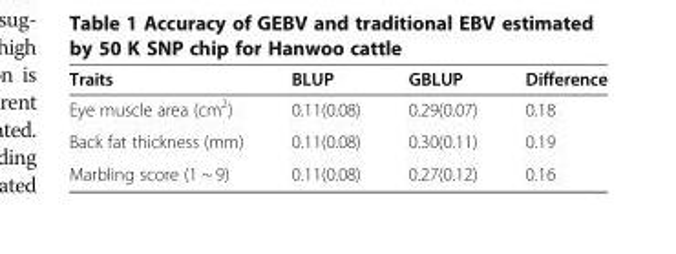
<table><thead><tr><td>Traits</td><td>BLUP</td><td>GBLUP</td><td>Difference</td></tr></thead><tbody><tr><td>Eye muscle area (cm<sup>2</sup>)</td><td>0.11(0.08)</td><td>0.29(0.07)</td><td>0.18</td></tr><tr><td>Back fat thickness (mm)</td><td>0.11(0.08)</td><td>0.30(0.11)</td><td>0.19</td></tr><tr><td>Marbling score (1 ~ 9)</td><td>0.11(0.08)</td><td>0.27(0.12)</td><td>0.16</td></tr></tbody></table>